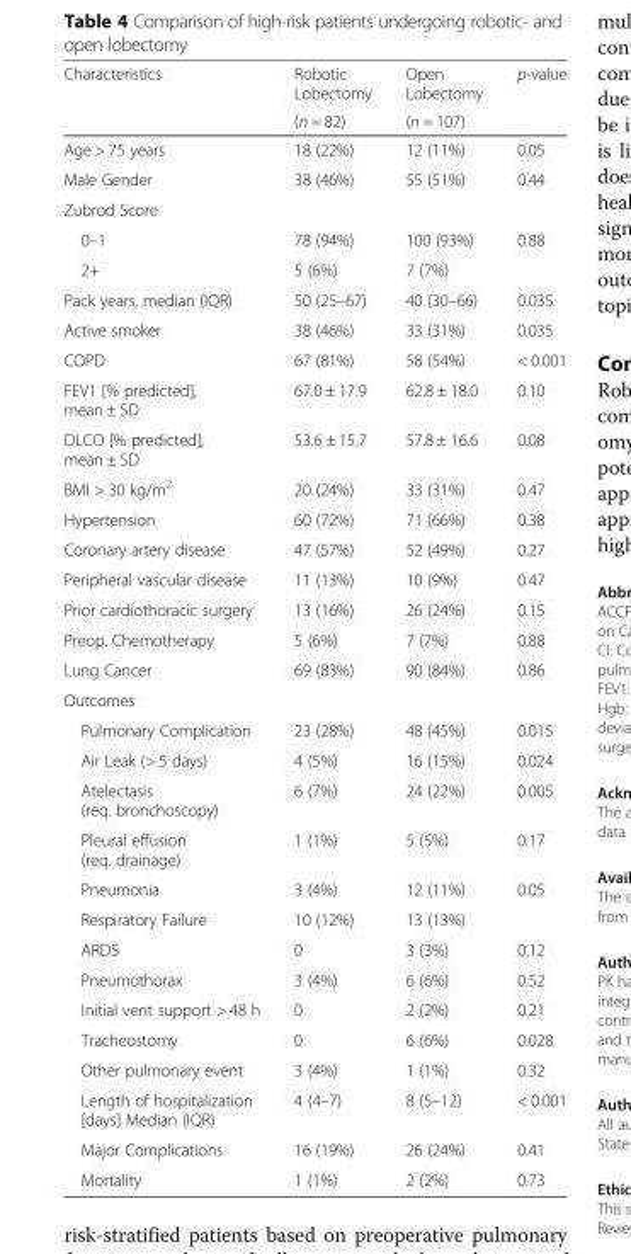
<table><thead><tr><td rowspan="2">Characteristics</td><td rowspan="2">Robotic Lobectomy (n = 82)</td><td rowspan="2">Open Lobectomy (n = 107)</td><td rowspan="2">p-value</td></tr><tr></tr></thead><tbody><tr><td>Age &gt; 75 years</td><td>18 (22%)</td><td>12 (11%)</td><td>0.05</td></tr><tr><td>Male Gender</td><td>38 (46%)</td><td>55 (51%)</td><td>0.44</td></tr><tr><td colspan="4">Zubrod Score</td></tr><tr><td>0–1</td><td>78 (94%)</td><td>100 (93%)</td><td>0.88</td></tr><tr><td>2+</td><td>5 (6%)</td><td>7 (7%)</td><td></td></tr><tr><td>Pack years, median (IQR)</td><td>50 (25–67)</td><td>40 (30–66)</td><td>0.035</td></tr><tr><td>Active smoker</td><td>38 (46%)</td><td>33 (31%)</td><td>0.035</td></tr><tr><td>COPD</td><td>67 (81%)</td><td>58 (54%)</td><td>&lt; 0.001</td></tr><tr><td>FEV1 [% predicted], mean ± SD</td><td>67.0 ± 17.9</td><td>62.8 ± 18.0</td><td>0.10</td></tr><tr><td>DLCO [% predicted], mean ± SD</td><td>53.6 ± 15.7</td><td>57.8 ± 16.6</td><td>0.08</td></tr><tr><td>BMI &gt; 30 kg/m<sup>2</sup></td><td>20 (24%)</td><td>33 (31%)</td><td>0.47</td></tr><tr><td>Hypertension</td><td>60 (72%)</td><td>71 (66%)</td><td>0.38</td></tr><tr><td>Coronary artery disease</td><td>47 (57%)</td><td>52 (49%)</td><td>0.27</td></tr><tr><td>Peripheral vascular disease</td><td>11 (13%)</td><td>10 (9%)</td><td>0.47</td></tr><tr><td>Prior cardiothoracic surgery</td><td>13 (16%)</td><td>26 (24%)</td><td>0.15</td></tr><tr><td>Preop. Chemotherapy</td><td>5 (6%)</td><td>7 (7%)</td><td>0.88</td></tr><tr><td>Lung Cancer</td><td>69 (83%)</td><td>90 (84%)</td><td>0.86</td></tr><tr><td colspan="4">Outcomes</td></tr><tr><td>Pulmonary Complication</td><td>23 (28%)</td><td>48 (45%)</td><td>0.015</td></tr><tr><td>Air Leak (&gt; 5 days)</td><td>4 (5%)</td><td>16 (15%)</td><td>0.024</td></tr><tr><td>Atelectasis (req. bronchoscopy)</td><td>6 (7%)</td><td>24 (22%)</td><td>0.005</td></tr><tr><td>Pleural effusion (req. drainage)</td><td>1 (1%)</td><td>5 (5%)</td><td>0.17</td></tr><tr><td>Pneumonia</td><td>3 (4%)</td><td>12 (11%)</td><td>0.05</td></tr><tr><td>Respiratory Failure</td><td>10 (12%)</td><td>13 (13%)</td><td></td></tr><tr><td>ARDS</td><td>0</td><td>3 (3%)</td><td>0.12</td></tr><tr><td>Pneumothorax</td><td>3 (4%)</td><td>6 (6%)</td><td>0.52</td></tr><tr><td>Initial vent support &gt; 48 h</td><td>0</td><td>2 (2%)</td><td>0.21</td></tr><tr><td>Tracheostomy</td><td>0</td><td>6 (6%)</td><td>0.028</td></tr><tr><td>Other pulmonary event</td><td>3 (4%)</td><td>1 (1%)</td><td>0.32</td></tr><tr><td>Length of hospitalization [days] Median (IQR)</td><td>4 (4–7)</td><td>8 (5–12)</td><td>&lt; 0.001</td></tr><tr><td>Major Complications</td><td>16 (19%)</td><td>26 (24%)</td><td>0.41</td></tr><tr><td>Mortality</td><td>1 (1%)</td><td>2 (2%)</td><td>0.73</td></tr></tbody></table>